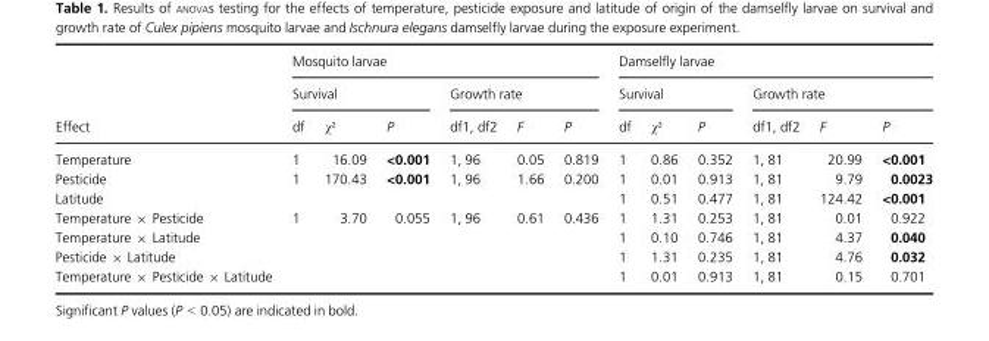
<table><thead><tr><td rowspan="3">Effect</td><td colspan="6">Mosquito larvae</td><td colspan="6">Damselfly larvae</td></tr><tr><td colspan="3">Survival</td><td colspan="3">Growth rate</td><td colspan="3">Survival</td><td colspan="3">Growth rate</td></tr><tr><td>df</td><td>χ²</td><td>P</td><td>df1, df2</td><td>F</td><td>P</td><td>df</td><td>χ²</td><td>P</td><td>df1, df2</td><td>F</td><td>P</td></tr></thead><tbody><tr><td>Temperature</td><td>1</td><td>16.09</td><td>&lt;0.001</td><td>1, 96</td><td>0.05</td><td>0.819</td><td>1</td><td>0.86</td><td>0.352</td><td>1, 81</td><td>20.99</td><td>&lt;0.001</td></tr><tr><td>Pesticide</td><td>1</td><td>170.43</td><td>&lt;0.001</td><td>1, 96</td><td>1.66</td><td>0.200</td><td>1</td><td>0.01</td><td>0.913</td><td>1, 81</td><td>9.79</td><td>0.0023</td></tr><tr><td>Latitude</td><td></td><td></td><td></td><td></td><td></td><td></td><td>1</td><td>0.51</td><td>0.477</td><td>1, 81</td><td>124.42</td><td>&lt;0.001</td></tr><tr><td>Temperature × Pesticide</td><td>1</td><td>3.70</td><td>0.055</td><td>1, 96</td><td>0.61</td><td>0.436</td><td>1</td><td>1.31</td><td>0.253</td><td>1, 81</td><td>0.01</td><td>0.922</td></tr><tr><td>Temperature × Latitude</td><td></td><td></td><td></td><td></td><td></td><td></td><td>1</td><td>0.10</td><td>0.746</td><td>1, 81</td><td>4.37</td><td>0.040</td></tr><tr><td>Pesticide × Latitude</td><td></td><td></td><td></td><td></td><td></td><td></td><td>1</td><td>1.31</td><td>0.235</td><td>1, 81</td><td>4.76</td><td>0.032</td></tr><tr><td>Temperature × Pesticide × Latitude</td><td></td><td></td><td></td><td></td><td></td><td></td><td>1</td><td>0.01</td><td>0.913</td><td>1, 81</td><td>0.15</td><td>0.701</td></tr></tbody></table>